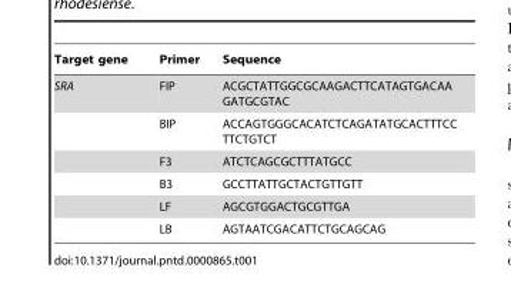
<table><thead><tr><td>Target gene</td><td>Primer</td><td>Sequence</td></tr></thead><tbody><tr><td rowspan="6">SRA</td><td>FIP</td><td>ACGCTATTGGCGCAAGACTTCATAGTGACAA GATGCGTAC</td></tr><tr><td>BIP</td><td>ACCAGTGGGCACATCTCAGATATGCACTTTCC TTCTGTCT</td></tr><tr><td>F3</td><td>ATCTCAGCGCTTTATGCC</td></tr><tr><td>B3</td><td>GCCTTATTGCTACTGTTGTT</td></tr><tr><td>LF</td><td>AGCGTGGACTGCGTTGA</td></tr><tr><td>LB</td><td>AGTAATCGACATTCTGCAGCAG</td></tr></tbody></table>